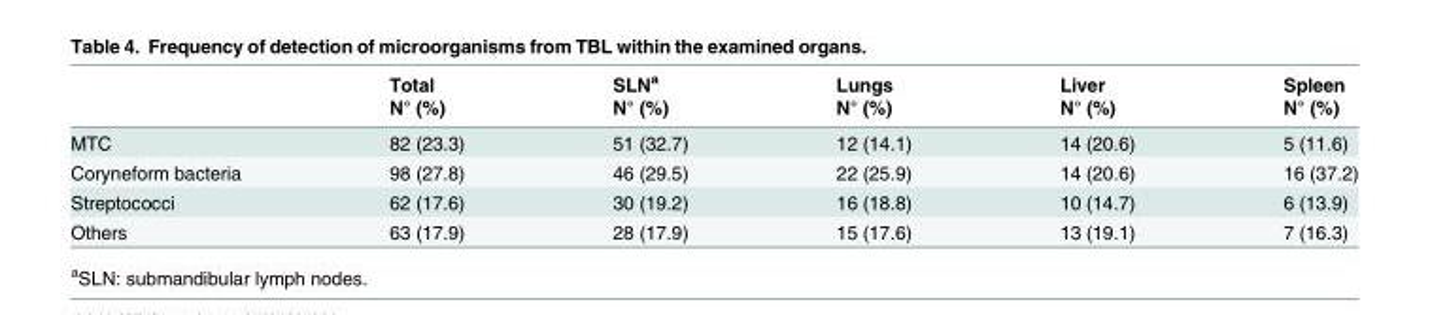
<table><thead><tr><td rowspan="2"></td><td rowspan="2">Total N° (%)</td><td rowspan="2">SLN<sup>a</sup> N° (%)</td><td rowspan="2">Lungs N° (%)</td><td rowspan="2">Liver N° (%)</td><td rowspan="2">Spleen N° (%)</td></tr><tr></tr></thead><tbody><tr><td>MTC</td><td>82 (23.3)</td><td>51 (32.7)</td><td>12 (14.1)</td><td>14 (20.6)</td><td>5 (11.6)</td></tr><tr><td>Coryneform bacteria</td><td>98 (27.8)</td><td>46 (29.5)</td><td>22 (25.9)</td><td>14 (20.6)</td><td>16 (37.2)</td></tr><tr><td>Streptococci</td><td>62 (17.6)</td><td>30 (19.2)</td><td>16 (18.8)</td><td>10 (14.7)</td><td>6 (13.9)</td></tr><tr><td>Others</td><td>63 (17.9)</td><td>28 (17.9)</td><td>15 (17.6)</td><td>13 (19.1)</td><td>7 (16.3)</td></tr></tbody></table>